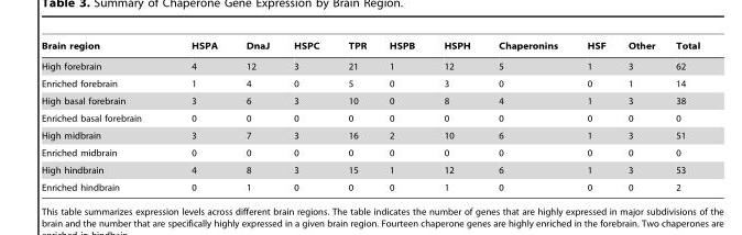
<table><thead><tr><td>Brain region</td><td>HSPA</td><td>DnaJ</td><td>HSPC</td><td>TPR</td><td>HSPB</td><td>HSPH</td><td>Chaperonins</td><td>HSF</td><td>Other</td><td>Total</td></tr></thead><tbody><tr><td>High forebrain</td><td>4</td><td>12</td><td>3</td><td>21</td><td>1</td><td>12</td><td>5</td><td>1</td><td>3</td><td>62</td></tr><tr><td>Enriched forebrain</td><td>1</td><td>4</td><td>0</td><td>5</td><td>0</td><td>3</td><td>0</td><td>0</td><td>1</td><td>14</td></tr><tr><td>High basal forebrain</td><td>3</td><td>6</td><td>3</td><td>10</td><td>0</td><td>8</td><td>4</td><td>1</td><td>3</td><td>38</td></tr><tr><td>Enriched basal forebrain</td><td>0</td><td>0</td><td>0</td><td>0</td><td>0</td><td>0</td><td>0</td><td>0</td><td>0</td><td>0</td></tr><tr><td>High midbrain</td><td>3</td><td>7</td><td>3</td><td>16</td><td>2</td><td>10</td><td>6</td><td>1</td><td>3</td><td>51</td></tr><tr><td>Enriched midbrain</td><td>0</td><td>0</td><td>0</td><td>0</td><td>0</td><td>0</td><td>0</td><td>0</td><td>0</td><td>0</td></tr><tr><td>High hindbrain</td><td>4</td><td>8</td><td>3</td><td>15</td><td>1</td><td>12</td><td>6</td><td>1</td><td>3</td><td>53</td></tr><tr><td>Enriched hindbrain</td><td>0</td><td>1</td><td>0</td><td>0</td><td>0</td><td>1</td><td>0</td><td>0</td><td>0</td><td>2</td></tr></tbody></table>